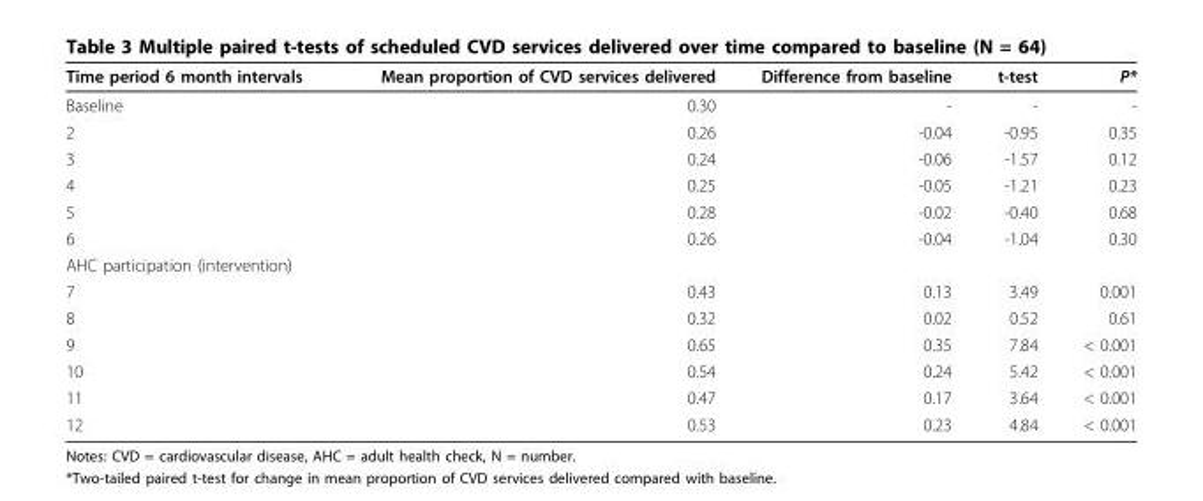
<table><thead><tr><td>Time period 6 month intervals</td><td>Mean proportion of CVD services delivered</td><td>Difference from baseline</td><td>t-test</td><td>P*</td></tr></thead><tbody><tr><td>Baseline</td><td>0.30</td><td>-</td><td>-</td><td>-</td></tr><tr><td>2</td><td>0.26</td><td>-0.04</td><td>-0.95</td><td>0.35</td></tr><tr><td>3</td><td>0.24</td><td>-0.06</td><td>-1.57</td><td>0.12</td></tr><tr><td>4</td><td>0.25</td><td>-0.05</td><td>-1.21</td><td>0.23</td></tr><tr><td>5</td><td>0.28</td><td>-0.02</td><td>-0.40</td><td>0.68</td></tr><tr><td>6</td><td>0.26</td><td>-0.04</td><td>-1.04</td><td>0.30</td></tr><tr><td colspan="5">AHC participation (intervention)</td></tr><tr><td>7</td><td>0.43</td><td>0.13</td><td>3.49</td><td>0.001</td></tr><tr><td>8</td><td>0.32</td><td>0.02</td><td>0.52</td><td>0.61</td></tr><tr><td>9</td><td>0.65</td><td>0.35</td><td>7.84</td><td>&lt; 0.001</td></tr><tr><td>10</td><td>0.54</td><td>0.24</td><td>5.42</td><td>&lt; 0.001</td></tr><tr><td>11</td><td>0.47</td><td>0.17</td><td>3.64</td><td>&lt; 0.001</td></tr><tr><td>12</td><td>0.53</td><td>0.23</td><td>4.84</td><td>&lt; 0.001</td></tr></tbody></table>